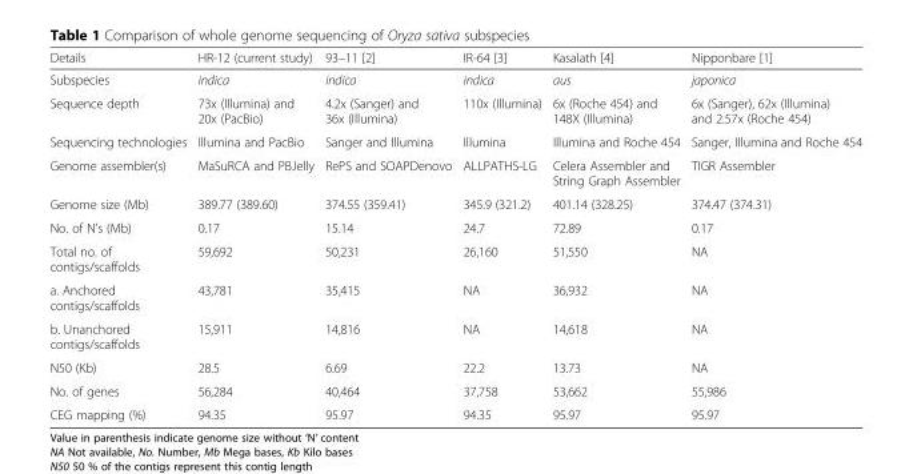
<table><thead><tr><td>Details</td><td>HR-12 (current study)</td><td>93–11 [2]</td><td>IR-64 [3]</td><td>Kasalath [4]</td><td>Nipponbare [1]</td></tr></thead><tbody><tr><td>Subspecies</td><td>indica</td><td>indica</td><td>indica</td><td>aus</td><td>japonica</td></tr><tr><td>Sequence depth</td><td>73x (Illumina) and 20x (PacBio)</td><td>4.2x (Sanger) and 36x (Illumina)</td><td>110x (Illumina)</td><td>6x (Roche 454) and 148X (Illumina)</td><td>6x (Sanger), 62x (Illumina) and 2.57x (Roche 454)</td></tr><tr><td>Sequencing technologies</td><td>Illumina and PacBio</td><td>Sanger and Illumina</td><td>Illumina</td><td>Illumina and Roche 454</td><td>Sanger, Illumina and Roche 454</td></tr><tr><td>Genome assembler(s)</td><td>MaSuRCA and PBJelly</td><td>RePS and SOAPDenovo</td><td>ALLPATHS-LG</td><td>Celera Assembler and String Graph Assembler</td><td>TIGR Assembler</td></tr><tr><td>Genome size (Mb)</td><td>389.77 (389.60)</td><td>374.55 (359.41)</td><td>345.9 (321.2)</td><td>401.14 (328.25)</td><td>374.47 (374.31)</td></tr><tr><td>No. of N&#x27;s (Mb)</td><td>0.17</td><td>15.14</td><td>24.7</td><td>72.89</td><td>0.17</td></tr><tr><td>Total no. of contigs/scaffolds</td><td>59,692</td><td>50,231</td><td>26,160</td><td>51,550</td><td>NA</td></tr><tr><td>a. Anchored contigs/scaffolds</td><td>43,781</td><td>35,415</td><td>NA</td><td>36,932</td><td>NA</td></tr><tr><td>b. Unanchored contigs/scaffolds</td><td>15,911</td><td>14,816</td><td>NA</td><td>14,618</td><td>NA</td></tr><tr><td>N50 (Kb)</td><td>28.5</td><td>6.69</td><td>22.2</td><td>13.73</td><td>NA</td></tr><tr><td>No. of genes</td><td>56,284</td><td>40,464</td><td>37,758</td><td>53,662</td><td>55,986</td></tr><tr><td>CEG mapping (%)</td><td>94.35</td><td>95.97</td><td>94.35</td><td>95.97</td><td>95.97</td></tr></tbody></table>